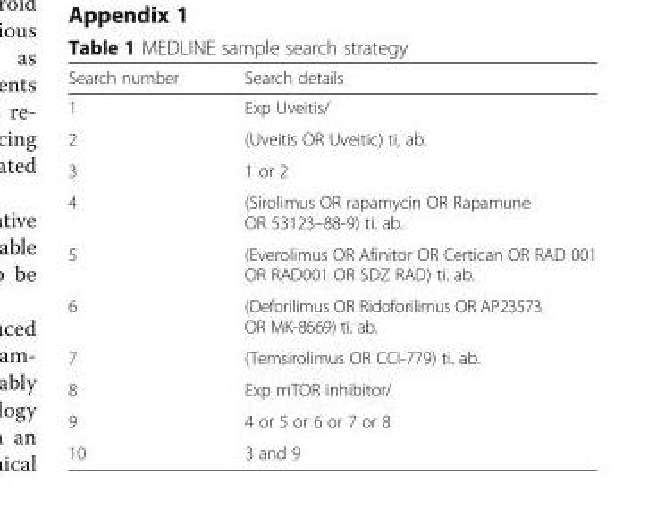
<table><thead><tr><td>Search number</td><td>Search details</td></tr></thead><tbody><tr><td>1</td><td>Exp Uveitis/</td></tr><tr><td>2</td><td>(Uveitis OR Uveitic) ti, ab.</td></tr><tr><td>3</td><td>1 or 2</td></tr><tr><td>4</td><td>(Sirolimus OR rapamycin OR Rapamune OR 53123–88-9) ti. ab.</td></tr><tr><td>5</td><td>(Everolimus OR Afinitor OR Certican OR RAD 001 OR RAD001 OR SDZ RAD) ti. ab.</td></tr><tr><td>6</td><td>(Deforilimus OR Ridoforilimus OR AP23573 OR MK-8669) ti. ab.</td></tr><tr><td>7</td><td>(Temsirolimus OR CCI-779) ti. ab.</td></tr><tr><td>8</td><td>Exp mTOR inhibitor/</td></tr><tr><td>9</td><td>4 or 5 or 6 or 7 or 8</td></tr><tr><td>10</td><td>3 and 9</td></tr></tbody></table>